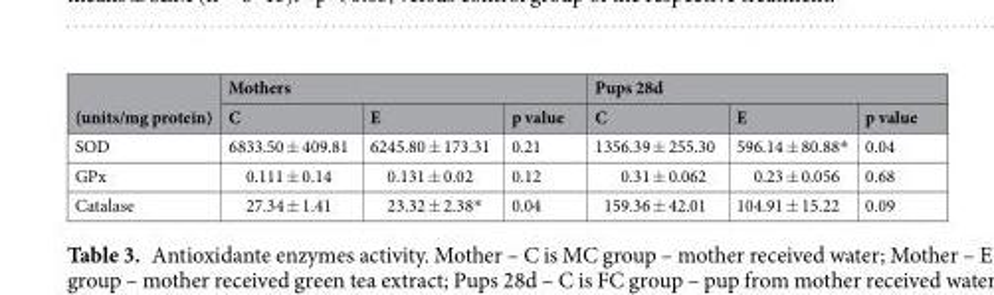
<table><thead><tr><td rowspan="2">(units/mg protein)</td><td colspan="3">Mothers</td><td colspan="3">Pups 28d</td></tr><tr><td>C</td><td>E</td><td>p value</td><td>C</td><td>E</td><td>p value</td></tr></thead><tbody><tr><td>SOD</td><td>6833.50 ± 409.81</td><td>6245.80 ± 173.31</td><td>0.21</td><td>1356.39 ± 255.30</td><td>596.14 ± 80.88*</td><td>0.04</td></tr><tr><td>GPx</td><td>0.111 ± 0.14</td><td>0.131 ± 0.02</td><td>0.12</td><td>0.31 ± 0.062</td><td>0.23 ± 0.056</td><td>0.68</td></tr><tr><td>Catalase</td><td>27.34 ± 1.41</td><td>23.32 ± 2.38*</td><td>0.04</td><td>159.36 ± 42.01</td><td>104.91 ± 15.22</td><td>0.09</td></tr></tbody></table>